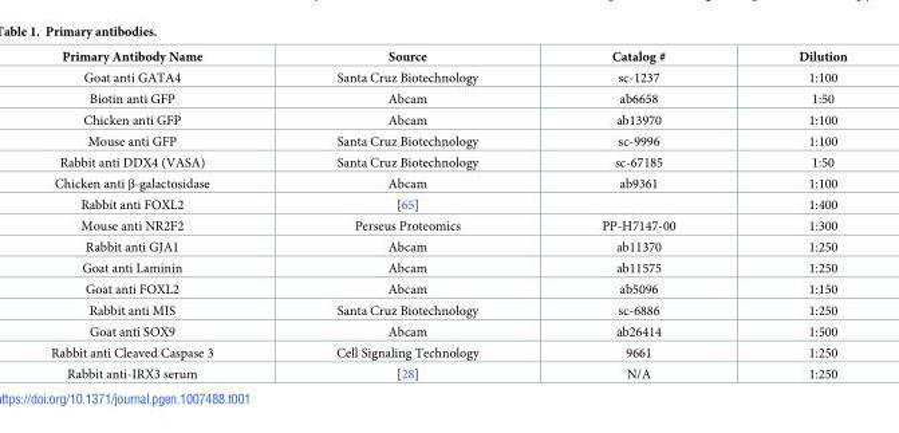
<table><thead><tr><td>Primary Antibody Name</td><td>Source</td><td>Catalog #</td><td>Dilution</td></tr></thead><tbody><tr><td>Goat anti GATA4</td><td>Santa Cruz Biotechnology</td><td>sc-1237</td><td>1:100</td></tr><tr><td>Biotin anti GFP</td><td>Abcam</td><td>ab6658</td><td>1:50</td></tr><tr><td>Chicken anti GFP</td><td>Abcam</td><td>ab13970</td><td>1:100</td></tr><tr><td>Mouse anti GFP</td><td>Santa Cruz Biotechnology</td><td>sc-9996</td><td>1:100</td></tr><tr><td>Rabbit anti DDX4 (VASA)</td><td>Santa Cruz Biotechnology</td><td>sc-67185</td><td>1:50</td></tr><tr><td>Chicken anti β-galactosidase</td><td>Abcam</td><td>ab9361</td><td>1:100</td></tr><tr><td>Rabbit anti FOXL2</td><td>[65]</td><td></td><td>1:400</td></tr><tr><td>Mouse anti NR2F2</td><td>Perseus Proteomics</td><td>PP-H7147-00</td><td>1:300</td></tr><tr><td>Rabbit anti GJA1</td><td>Abcam</td><td>ab11370</td><td>1:250</td></tr><tr><td>Goat anti Laminin</td><td>Abcam</td><td>ab11575</td><td>1:250</td></tr><tr><td>Goat anti FOXL2</td><td>Abcam</td><td>ab5096</td><td>1:150</td></tr><tr><td>Rabbit anti MIS</td><td>Santa Cruz Biotechnology</td><td>sc-6886</td><td>1:250</td></tr><tr><td>Goat anti SOX9</td><td>Abcam</td><td>ab26414</td><td>1:500</td></tr><tr><td>Rabbit anti Cleaved Caspase 3</td><td>Cell Signaling Technology</td><td>9661</td><td>1:250</td></tr><tr><td>Rabbit anti-IRX3 serum</td><td>[28]</td><td>N/A</td><td>1:250</td></tr></tbody></table>